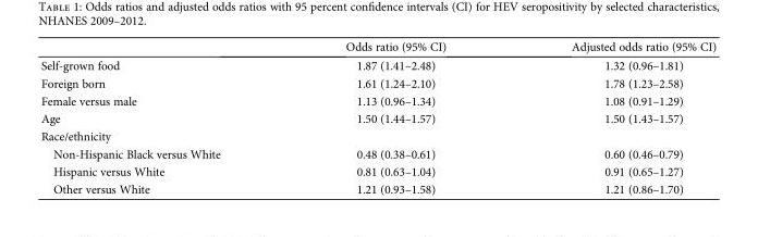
<table><thead><tr><td></td><td>Odds ratio (95% CI)</td><td>Adjusted odds ratio (95% CI)</td></tr></thead><tbody><tr><td>Self-grown food</td><td>1.87 (1.41–2.48)</td><td>1.32 (0.96–1.81)</td></tr><tr><td>Foreign born</td><td>1.61 (1.24–2.10)</td><td>1.78 (1.23–2.58)</td></tr><tr><td>Female versus male</td><td>1.13 (0.96–1.34)</td><td>1.08 (0.91–1.29)</td></tr><tr><td>Age</td><td>1.50 (1.44–1.57)</td><td>1.50 (1.43–1.57)</td></tr><tr><td colspan="3">Race/ethnicity</td></tr><tr><td>Non-Hispanic Black versus White</td><td>0.48 (0.38–0.61)</td><td>0.60 (0.46–0.79)</td></tr><tr><td>Hispanic versus White</td><td>0.81 (0.63–1.04)</td><td>0.91 (0.65–1.27)</td></tr><tr><td>Other versus White</td><td>1.21 (0.93–1.58)</td><td>1.21 (0.86–1.70)</td></tr></tbody></table>